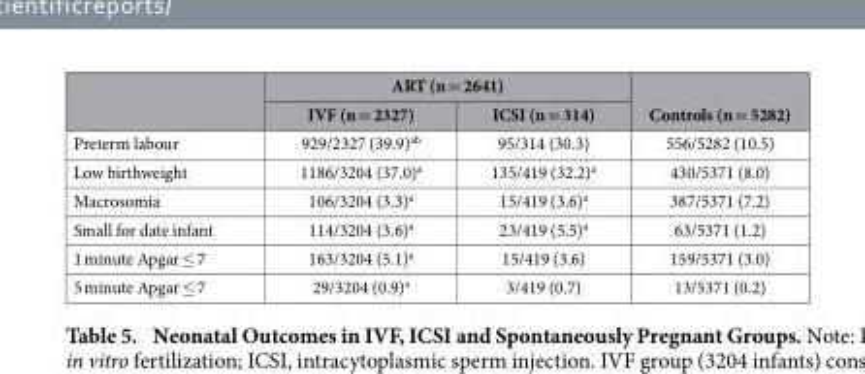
<table><thead><tr><td rowspan="2"></td><td colspan="2">ART (n = 2641)</td><td rowspan="2">Controls (n = 5282)</td></tr><tr><td>IVF (n = 2327)</td><td>ICSI (n = 314)</td></tr></thead><tbody><tr><td>Preterm labour</td><td>929/2327 (39.9)<sup>ab</sup></td><td>95/314 (30.3)</td><td>556/5282 (10.5)</td></tr><tr><td>Low birthweight</td><td>1186/3204 (37.0)<sup>a</sup></td><td>135/419 (32.2)<sup>a</sup></td><td>430/5371 (8.0)</td></tr><tr><td>Macrosomia</td><td>106/3204 (3.3)<sup>a</sup></td><td>15/419 (3.6)<sup>a</sup></td><td>387/5371 (7.2)</td></tr><tr><td>Small for date infant</td><td>114/3204 (3.6)<sup>a</sup></td><td>23/419 (5.5)<sup>a</sup></td><td>63/5371 (1.2)</td></tr><tr><td>1 minute Apgar ≤ 7</td><td>163/3204 (5.1)<sup>a</sup></td><td>15/419 (3.6)</td><td>159/5371 (3.0)</td></tr><tr><td>5 minute Apgar ≤ 7</td><td>29/3204 (0.9)<sup>a</sup></td><td>3/419 (0.7)</td><td>13/5371 (0.2)</td></tr></tbody></table>